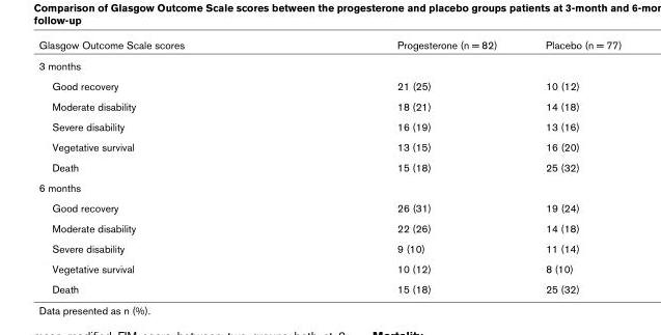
<table><thead><tr><td>Glasgow Outcome Scale scores</td><td>Progesterone (n = 82)</td><td>Placebo (n = 77)</td></tr></thead><tbody><tr><td colspan="3">3 months</td></tr><tr><td>Good recovery</td><td>21 (25)</td><td>10 (12)</td></tr><tr><td>Moderate disability</td><td>18 (21)</td><td>14 (18)</td></tr><tr><td>Severe disability</td><td>16 (19)</td><td>13 (16)</td></tr><tr><td>Vegetative survival</td><td>13 (15)</td><td>16 (20)</td></tr><tr><td>Death</td><td>15 (18)</td><td>25 (32)</td></tr><tr><td colspan="3">6 months</td></tr><tr><td>Good recovery</td><td>26 (31)</td><td>19 (24)</td></tr><tr><td>Moderate disability</td><td>22 (26)</td><td>14 (18)</td></tr><tr><td>Severe disability</td><td>9 (10)</td><td>11 (14)</td></tr><tr><td>Vegetative survival</td><td>10 (12)</td><td>8 (10)</td></tr><tr><td>Death</td><td>15 (18)</td><td>25 (32)</td></tr></tbody></table>